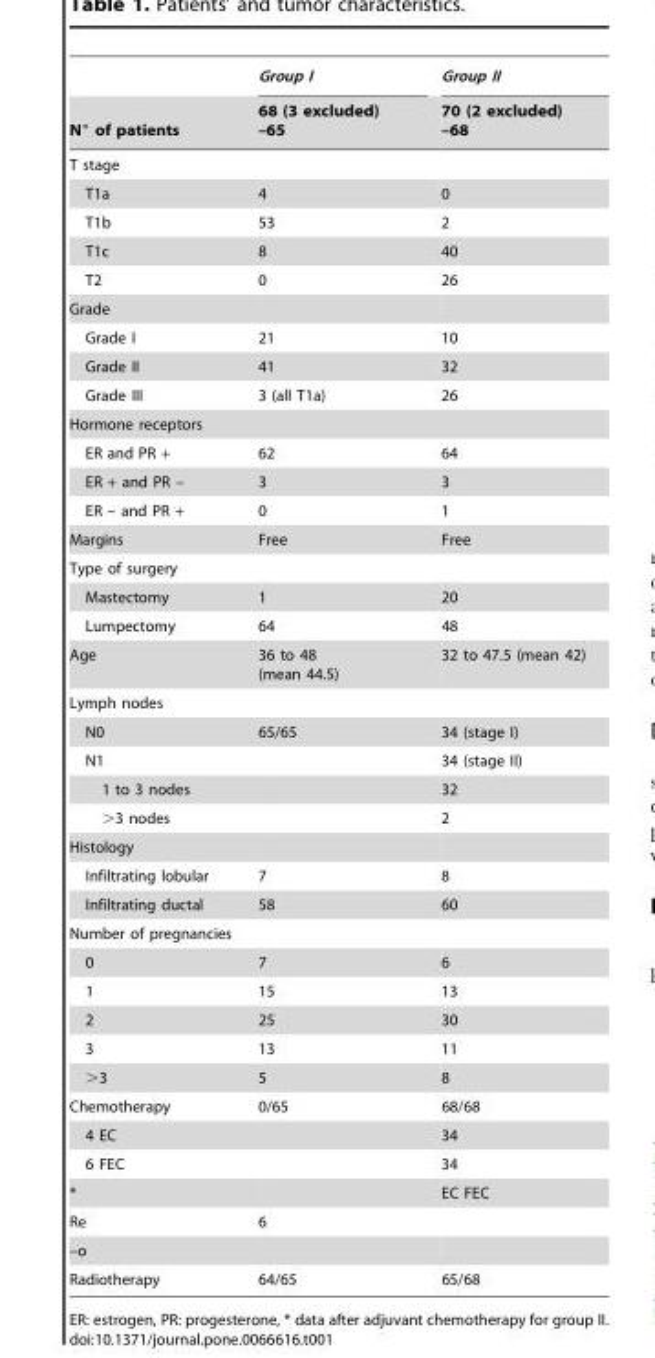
<table><thead><tr><td rowspan="2">N° of patients</td><td rowspan="2">Group I 68 (3 excluded) –65</td><td rowspan="2">Group II 70 (2 excluded) –68</td></tr><tr></tr></thead><tbody><tr><td colspan="3">T stage</td></tr><tr><td>T1a</td><td>4</td><td>0</td></tr><tr><td>T1b</td><td>53</td><td>2</td></tr><tr><td>T1c</td><td>8</td><td>40</td></tr><tr><td>T2</td><td>0</td><td>26</td></tr><tr><td colspan="3">Grade</td></tr><tr><td>Grade I</td><td>21</td><td>10</td></tr><tr><td>Grade II</td><td>41</td><td>32</td></tr><tr><td>Grade III</td><td>3 (all T1a)</td><td>26</td></tr><tr><td colspan="3">Hormone receptors</td></tr><tr><td>ER and PR +</td><td>62</td><td>64</td></tr><tr><td>ER + and PR –</td><td>3</td><td>3</td></tr><tr><td>ER – and PR +</td><td>0</td><td>1</td></tr><tr><td>Margins</td><td>Free</td><td>Free</td></tr><tr><td colspan="3">Type of surgery</td></tr><tr><td>Mastectomy</td><td>1</td><td>20</td></tr><tr><td>Lumpectomy</td><td>64</td><td>48</td></tr><tr><td>Age</td><td>36 to 48 (mean 44.5)</td><td>32 to 47.5 (mean 42)</td></tr><tr><td colspan="3">Lymph nodes</td></tr><tr><td>N0</td><td>65/65</td><td>34 (stage I)</td></tr><tr><td>N1</td><td></td><td>34 (stage II)</td></tr><tr><td>1 to 3 nodes</td><td></td><td>32</td></tr><tr><td>&gt;3 nodes</td><td></td><td>2</td></tr><tr><td colspan="3">Histology</td></tr><tr><td>Infiltrating lobular</td><td>7</td><td>8</td></tr><tr><td>Infiltrating ductal</td><td>58</td><td>60</td></tr><tr><td colspan="3">Number of pregnancies</td></tr><tr><td>0</td><td>7</td><td>6</td></tr><tr><td>1</td><td>15</td><td>13</td></tr><tr><td>2</td><td>25</td><td>30</td></tr><tr><td>3</td><td>13</td><td>11</td></tr><tr><td>&gt;3</td><td>5</td><td>8</td></tr><tr><td>Chemotherapy</td><td>0/65</td><td>68/68</td></tr><tr><td>4 EC</td><td></td><td>34</td></tr><tr><td>6 FEC</td><td></td><td>34</td></tr><tr><td>*</td><td></td><td>EC FEC</td></tr><tr><td>Re</td><td>6</td><td></td></tr><tr><td colspan="3">–o</td></tr><tr><td>Radiotherapy</td><td>64/65</td><td>65/68</td></tr></tbody></table>